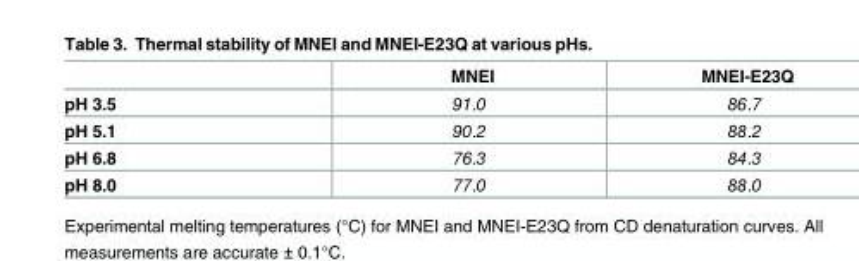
<table><thead><tr><td></td><td>MNEI</td><td>MNEI-E23Q</td></tr></thead><tbody><tr><td>pH 3.5</td><td>91.0</td><td>86.7</td></tr><tr><td>pH 5.1</td><td>90.2</td><td>88.2</td></tr><tr><td>pH 6.8</td><td>76.3</td><td>84.3</td></tr><tr><td>pH 8.0</td><td>77.0</td><td>88.0</td></tr></tbody></table>